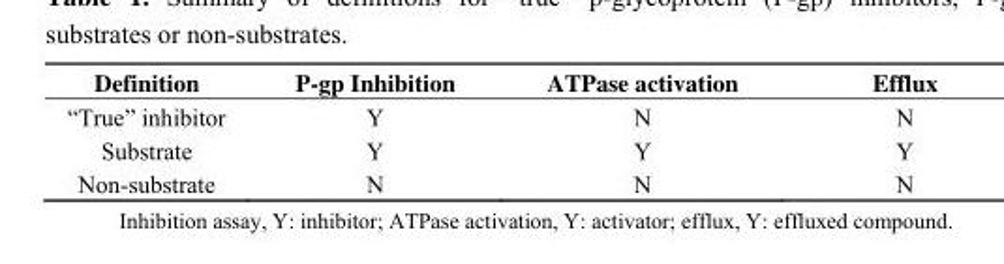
<table><thead><tr><td>Definition</td><td>P-gp Inhibition</td><td>ATPase activation</td><td>Efflux</td></tr></thead><tbody><tr><td>“True” inhibitor</td><td>Y</td><td>N</td><td>N</td></tr><tr><td>Substrate</td><td>Y</td><td>Y</td><td>Y</td></tr><tr><td>Non-substrate</td><td>N</td><td>N</td><td>N</td></tr></tbody></table>